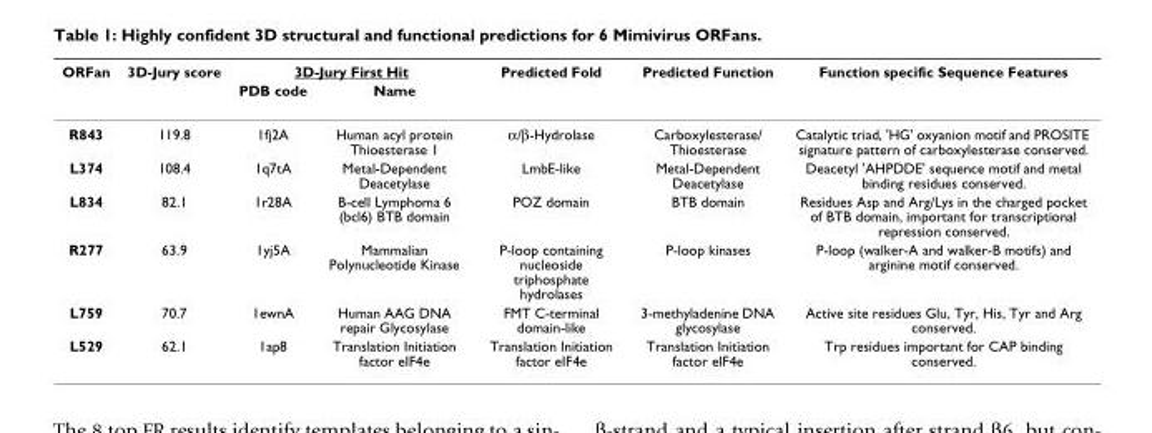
<table><thead><tr><td rowspan="2">ORFan</td><td rowspan="2">3D-Jury score</td><td colspan="2">3D-Jury First Hit</td><td rowspan="2">Predicted Fold</td><td rowspan="2">Predicted Function</td><td rowspan="2">Function specific Sequence Features</td></tr><tr><td>PDB code</td><td>Name</td></tr></thead><tbody><tr><td>R843</td><td>119.8</td><td>1fj2A</td><td>Human acyl protein Thioesterase 1</td><td>α/β-Hydrolase</td><td>Carboxylesterase/ Thioesterase</td><td>Catalytic triad, &#x27;HG&#x27; oxyanion motif and PROSITE signature pattern of carboxylesterase conserved.</td></tr><tr><td>L374</td><td>108.4</td><td>1q7tA</td><td>Metal-Dependent Deacetylase</td><td>LmbE-like</td><td>Metal-Dependent Deacetylase</td><td>Deacetyl &#x27;AHPDDE&#x27; sequence motif and metal binding residues conserved.</td></tr><tr><td>L834</td><td>82.1</td><td>1r28A</td><td>B-cell Lymphoma 6 (bcl6) BTB domain</td><td>POZ domain</td><td>BTB domain</td><td>Residues Asp and Arg/Lys in the charged pocket of BTB domain, important for transcriptional repression conserved.</td></tr><tr><td>R277</td><td>63.9</td><td>1yj5A</td><td>Mammalian Polynucleotide Kinase</td><td>P-loop containing nucleoside triphosphate hydrolases</td><td>P-loop kinases</td><td>P-loop (walker-A and walker-B motifs) and arginine motif conserved.</td></tr><tr><td>L759</td><td>70.7</td><td>1ewnA</td><td>Human AAG DNA repair Glycosylase</td><td>FMT C-terminal domain-like</td><td>3-methyladenine DNA glycosylase</td><td>Active site residues Glu, Tyr, His, Tyr and Arg conserved.</td></tr><tr><td>L529</td><td>62.1</td><td>1ap8</td><td>Translation Initiation factor eIF4e</td><td>Translation Initiation factor eIF4e</td><td>Translation Initiation factor eIF4e</td><td>Trp residues important for CAP binding conserved.</td></tr></tbody></table>